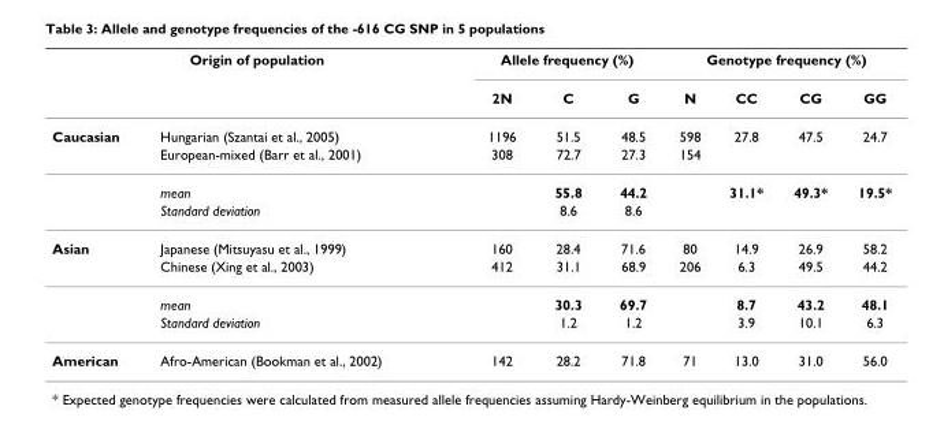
<table><thead><tr><td colspan="2">Origin of population</td><td colspan="3">Allele frequency (%)</td><td colspan="4">Genotype frequency (%)</td></tr><tr><td></td><td></td><td>2N</td><td>C</td><td>G</td><td>N</td><td>CC</td><td>CG</td><td>GG</td></tr></thead><tbody><tr><td rowspan="4">Caucasian</td><td>Hungarian (Szantai et al., 2005)</td><td>1196</td><td>51.5</td><td>48.5</td><td>598</td><td>27.8</td><td>47.5</td><td>24.7</td></tr><tr><td>European-mixed (Barr et al., 2001)</td><td>308</td><td>72.7</td><td>27.3</td><td>154</td><td></td><td></td><td></td></tr><tr><td>mean</td><td></td><td>55.8</td><td>44.2</td><td></td><td>31.1*</td><td>49.3*</td><td>19.5*</td></tr><tr><td>Standard deviation</td><td></td><td>8.6</td><td>8.6</td><td></td><td></td><td></td><td></td></tr><tr><td rowspan="4">Asian</td><td>Japanese (Mitsuyasu et al., 1999)</td><td>160</td><td>28.4</td><td>71.6</td><td>80</td><td>14.9</td><td>26.9</td><td>58.2</td></tr><tr><td>Chinese (Xing et al., 2003)</td><td>412</td><td>31.1</td><td>68.9</td><td>206</td><td>6.3</td><td>49.5</td><td>44.2</td></tr><tr><td>mean</td><td></td><td>30.3</td><td>69.7</td><td></td><td>8.7</td><td>43.2</td><td>48.1</td></tr><tr><td>Standard deviation</td><td></td><td>1.2</td><td>1.2</td><td></td><td>3.9</td><td>10.1</td><td>6.3</td></tr><tr><td>American</td><td>Afro-American (Bookman et al., 2002)</td><td>142</td><td>28.2</td><td>71.8</td><td>71</td><td>13.0</td><td>31.0</td><td>56.0</td></tr></tbody></table>